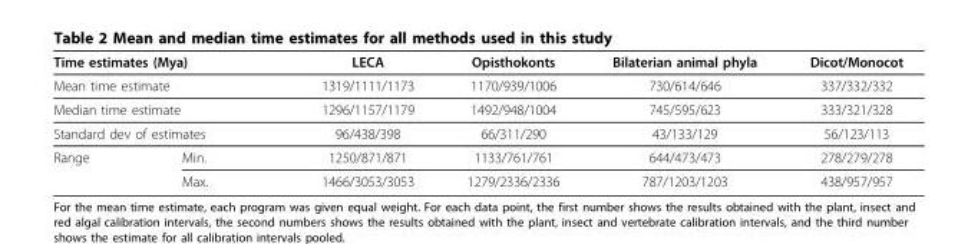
<table><thead><tr><td colspan="2">Time estimates (Mya)</td><td>LECA</td><td>Opisthokonts</td><td>Bilaterian animal phyla</td><td>Dicot/Monocot</td></tr></thead><tbody><tr><td colspan="2">Mean time estimate</td><td>1319/1111/1173</td><td>1170/939/1006</td><td>730/614/646</td><td>337/332/332</td></tr><tr><td colspan="2">Median time estimate</td><td>1296/1157/1179</td><td>1492/948/1004</td><td>745/595/623</td><td>333/321/328</td></tr><tr><td colspan="2">Standard dev of estimates</td><td>96/438/398</td><td>66/311/290</td><td>43/133/129</td><td>56/123/113</td></tr><tr><td rowspan="2">Range</td><td>Min.</td><td>1250/871/871</td><td>1133/761/761</td><td>644/473/473</td><td>278/279/278</td></tr><tr><td>Max.</td><td>1466/3053/3053</td><td>1279/2336/2336</td><td>787/1203/1203</td><td>438/957/957</td></tr></tbody></table>